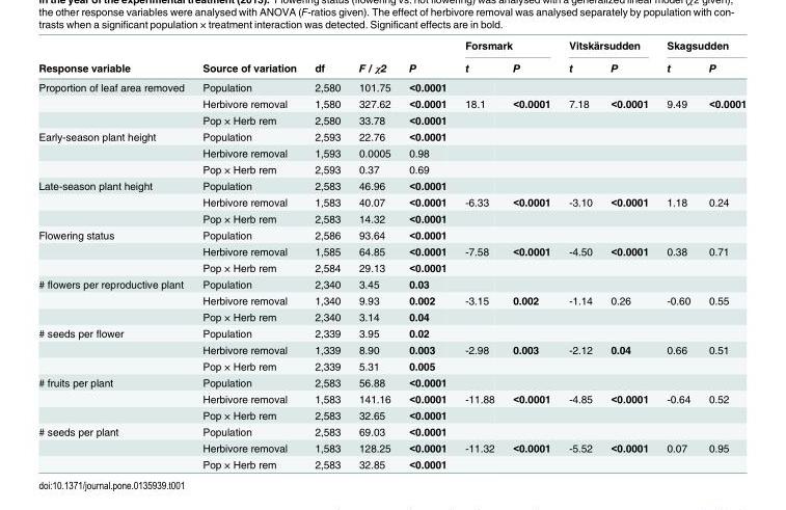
<table><thead><tr><td rowspan="2">Response variable</td><td rowspan="2">Source of variation</td><td rowspan="2">df</td><td rowspan="2">F / χ2</td><td rowspan="2">P</td><td colspan="2">Forsmark</td><td colspan="2">Vitskärsudden</td><td colspan="2">Skagsudden</td></tr><tr><td>t</td><td>P</td><td>t</td><td>P</td><td>t</td><td>P</td></tr></thead><tbody><tr><td rowspan="3">Proportion of leaf area removed</td><td>Population</td><td>2,580</td><td>101.75</td><td>&lt;0.0001</td><td></td><td></td><td></td><td></td><td></td><td></td></tr><tr><td>Herbivore removal</td><td>1,580</td><td>327.62</td><td>&lt;0.0001</td><td>18.1</td><td>&lt;0.0001</td><td>7.18</td><td>&lt;0.0001</td><td>9.49</td><td>&lt;0.0001</td></tr><tr><td>Pop × Herb rem</td><td>2,580</td><td>33.78</td><td>&lt;0.0001</td><td></td><td></td><td></td><td></td><td></td><td></td></tr><tr><td rowspan="3">Early-season plant height</td><td>Population</td><td>2,593</td><td>22.76</td><td>&lt;0.0001</td><td></td><td></td><td></td><td></td><td></td><td></td></tr><tr><td>Herbivore removal</td><td>1,593</td><td>0.0005</td><td>0.98</td><td></td><td></td><td></td><td></td><td></td><td></td></tr><tr><td>Pop × Herb rem</td><td>2,593</td><td>0.37</td><td>0.69</td><td></td><td></td><td></td><td></td><td></td><td></td></tr><tr><td rowspan="3">Late-season plant height</td><td>Population</td><td>2,583</td><td>46.96</td><td>&lt;0.0001</td><td></td><td></td><td></td><td></td><td></td><td></td></tr><tr><td>Herbivore removal</td><td>1,583</td><td>40.07</td><td>&lt;0.0001</td><td>-6.33</td><td>&lt;0.0001</td><td>-3.10</td><td>&lt;0.0001</td><td>1.18</td><td>0.24</td></tr><tr><td>Pop × Herb rem</td><td>2,583</td><td>14.32</td><td>&lt;0.0001</td><td></td><td></td><td></td><td></td><td></td><td></td></tr><tr><td rowspan="3">Flowering status</td><td>Population</td><td>2,586</td><td>93.64</td><td>&lt;0.0001</td><td></td><td></td><td></td><td></td><td></td><td></td></tr><tr><td>Herbivore removal</td><td>1,585</td><td>64.85</td><td>&lt;0.0001</td><td>-7.58</td><td>&lt;0.0001</td><td>-4.50</td><td>&lt;0.0001</td><td>0.38</td><td>0.71</td></tr><tr><td>Pop × Herb rem</td><td>2,584</td><td>29.13</td><td>&lt;0.0001</td><td></td><td></td><td></td><td></td><td></td><td></td></tr><tr><td rowspan="3"># flowers per reproductive plant</td><td>Population</td><td>2,340</td><td>3.45</td><td>0.03</td><td></td><td></td><td></td><td></td><td></td><td></td></tr><tr><td>Herbivore removal</td><td>1,340</td><td>9.93</td><td>0.002</td><td>-3.15</td><td>0.002</td><td>-1.14</td><td>0.26</td><td>-0.60</td><td>0.55</td></tr><tr><td>Pop × Herb rem</td><td>2,340</td><td>3.14</td><td>0.04</td><td></td><td></td><td></td><td></td><td></td><td></td></tr><tr><td rowspan="3"># seeds per flower</td><td>Population</td><td>2,339</td><td>3.95</td><td>0.02</td><td></td><td></td><td></td><td></td><td></td><td></td></tr><tr><td>Herbivore removal</td><td>1,339</td><td>8.90</td><td>0.003</td><td>-2.98</td><td>0.003</td><td>-2.12</td><td>0.04</td><td>0.66</td><td>0.51</td></tr><tr><td>Pop × Herb rem</td><td>2,339</td><td>5.31</td><td>0.005</td><td></td><td></td><td></td><td></td><td></td><td></td></tr><tr><td rowspan="3"># fruits per plant</td><td>Population</td><td>2,583</td><td>56.88</td><td>&lt;0.0001</td><td></td><td></td><td></td><td></td><td></td><td></td></tr><tr><td>Herbivore removal</td><td>1,583</td><td>141.16</td><td>&lt;0.0001</td><td>-11.88</td><td>&lt;0.0001</td><td>-4.85</td><td>&lt;0.0001</td><td>-0.64</td><td>0.52</td></tr><tr><td>Pop × Herb rem</td><td>2,583</td><td>32.65</td><td>&lt;0.0001</td><td></td><td></td><td></td><td></td><td></td><td></td></tr><tr><td rowspan="3"># seeds per plant</td><td>Population</td><td>2,583</td><td>69.03</td><td>&lt;0.0001</td><td></td><td></td><td></td><td></td><td></td><td></td></tr><tr><td>Herbivore removal</td><td>1,583</td><td>128.25</td><td>&lt;0.0001</td><td>-11.32</td><td>&lt;0.0001</td><td>-5.52</td><td>&lt;0.0001</td><td>0.07</td><td>0.95</td></tr><tr><td>Pop × Herb rem</td><td>2,583</td><td>32.85</td><td>&lt;0.0001</td><td></td><td></td><td></td><td></td><td></td><td></td></tr></tbody></table>